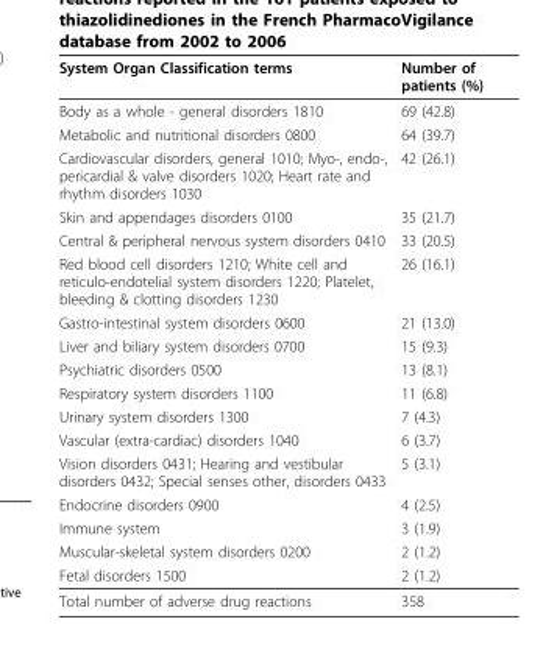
<table><thead><tr><td>System Organ Classification terms</td><td>Number of patients (%)</td></tr></thead><tbody><tr><td>Body as a whole - general disorders 1810</td><td>69 (42.8)</td></tr><tr><td>Metabolic and nutritional disorders 0800</td><td>64 (39.7)</td></tr><tr><td>Cardiovascular disorders, general 1010; Myo-, endo-, pericardial &amp; valve disorders 1020; Heart rate and rhythm disorders 1030</td><td>42 (26.1)</td></tr><tr><td>Skin and appendages disorders 0100</td><td>35 (21.7)</td></tr><tr><td>Central &amp; peripheral nervous system disorders 0410</td><td>33 (20.5)</td></tr><tr><td>Red blood cell disorders 1210; White cell and reticulo-endotelial system disorders 1220; Platelet, bleeding &amp; clotting disorders 1230</td><td>26 (16.1)</td></tr><tr><td>Gastro-intestinal system disorders 0600</td><td>21 (13.0)</td></tr><tr><td>Liver and biliary system disorders 0700</td><td>15 (9.3)</td></tr><tr><td>Psychiatric disorders 0500</td><td>13 (8.1)</td></tr><tr><td>Respiratory system disorders 1100</td><td>11 (6.8)</td></tr><tr><td>Urinary system disorders 1300</td><td>7 (4.3)</td></tr><tr><td>Vascular (extra-cardiac) disorders 1040</td><td>6 (3.7)</td></tr><tr><td>Vision disorders 0431; Hearing and vestibular disorders 0432; Special senses other, disorders 0433</td><td>5 (3.1)</td></tr><tr><td>Endocrine disorders 0900</td><td>4 (2.5)</td></tr><tr><td>Immune system</td><td>3 (1.9)</td></tr><tr><td>Muscular-skeletal system disorders 0200</td><td>2 (1.2)</td></tr><tr><td>Fetal disorders 1500</td><td>2 (1.2)</td></tr><tr><td>Total number of adverse drug reactions</td><td>358</td></tr></tbody></table>